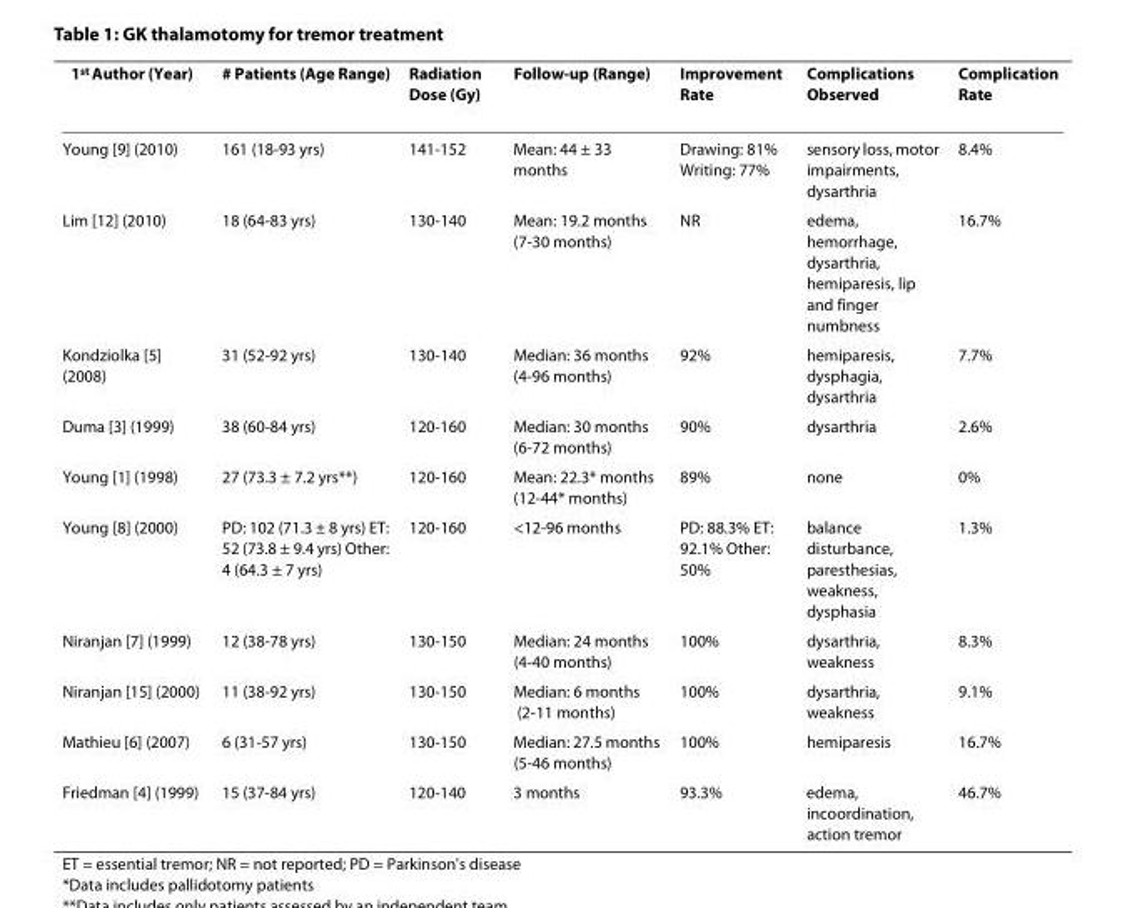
<table><thead><tr><td>1<sup>st</sup> Author (Year)</td><td># Patients (Age Range)</td><td>Radiation Dose (Gy)</td><td>Follow-up (Range)</td><td>Improvement Rate</td><td>Complications Observed</td><td>Complication Rate</td></tr></thead><tbody><tr><td>Young [9] (2010)</td><td>161 (18-93 yrs)</td><td>141-152</td><td>Mean: 44 ± 33 months</td><td>Drawing: 81% Writing: 77%</td><td>sensory loss, motor impairments, dysarthria</td><td>8.4%</td></tr><tr><td>Lim [12] (2010)</td><td>18 (64-83 yrs)</td><td>130-140</td><td>Mean: 19.2 months (7-30 months)</td><td>NR</td><td>edema, hemorrhage, dysarthria, hemiparesis, lip and finger numbness</td><td>16.7%</td></tr><tr><td>Kondziolka [5] (2008)</td><td>31 (52-92 yrs)</td><td>130-140</td><td>Median: 36 months (4-96 months)</td><td>92%</td><td>hemiparesis, dysphagia, dysarthria</td><td>7.7%</td></tr><tr><td>Duma [3] (1999)</td><td>38 (60-84 yrs)</td><td>120-160</td><td>Median: 30 months (6-72 months)</td><td>90%</td><td>dysarthria</td><td>2.6%</td></tr><tr><td>Young [1] (1998)</td><td>27 (73.3 ± 7.2 yrs**)</td><td>120-160</td><td>Mean: 22.3* months (12-44* months)</td><td>89%</td><td>none</td><td>0%</td></tr><tr><td>Young [8] (2000)</td><td>PD: 102 (71.3 ± 8 yrs) ET: 52 (73.8 ± 9.4 yrs) Other: 4 (64.3 ± 7 yrs)</td><td>120-160</td><td>&lt;12-96 months</td><td>PD: 88.3% ET: 92.1% Other: 50%</td><td>balance disturbance, paresthesias, weakness, dysphasia</td><td>1.3%</td></tr><tr><td>Niranjan [7] (1999)</td><td>12 (38-78 yrs)</td><td>130-150</td><td>Median: 24 months (4-40 months)</td><td>100%</td><td>dysarthria, weakness</td><td>8.3%</td></tr><tr><td>Niranjan [15] (2000)</td><td>11 (38-92 yrs)</td><td>130-150</td><td>Median: 6 months (2-11 months)</td><td>100%</td><td>dysarthria, weakness</td><td>9.1%</td></tr><tr><td>Mathieu [6] (2007)</td><td>6 (31-57 yrs)</td><td>130-150</td><td>Median: 27.5 months (5-46 months)</td><td>100%</td><td>hemiparesis</td><td>16.7%</td></tr><tr><td>Friedman [4] (1999)</td><td>15 (37-84 yrs)</td><td>120-140</td><td>3 months</td><td>93.3%</td><td>edema, incoordination, action tremor</td><td>46.7%</td></tr></tbody></table>